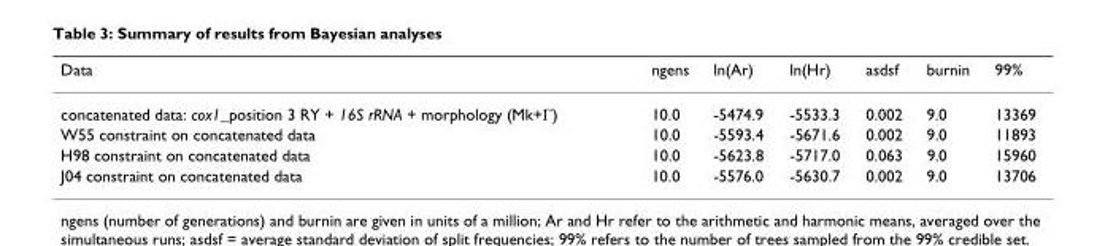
<table><thead><tr><td>Data</td><td>ngens</td><td>ln(Ar)</td><td>ln(Hr)</td><td>asdsf</td><td>burnin</td><td>99%</td></tr></thead><tbody><tr><td>concatenated data: cox1_position 3 RY + 16S rRNA + morphology (Mk+Γ)</td><td>10.0</td><td>-5474.9</td><td>-5533.3</td><td>0.002</td><td>9.0</td><td>13369</td></tr><tr><td>W55 constraint on concatenated data</td><td>10.0</td><td>-5593.4</td><td>-5671.6</td><td>0.002</td><td>9.0</td><td>11893</td></tr><tr><td>H98 constraint on concatenated data</td><td>10.0</td><td>-5623.8</td><td>-5717.0</td><td>0.063</td><td>9.0</td><td>15960</td></tr><tr><td>J04 constraint on concatenated data</td><td>10.0</td><td>-5576.0</td><td>-5630.7</td><td>0.002</td><td>9.0</td><td>13706</td></tr></tbody></table>